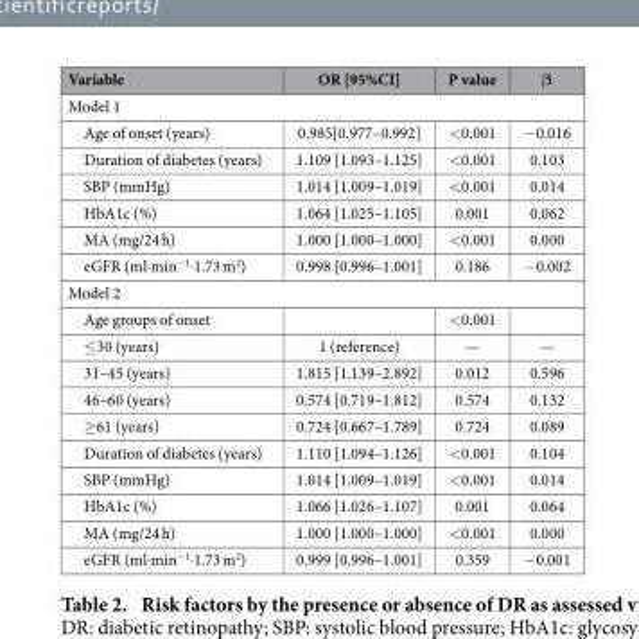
<table><thead><tr><td>Variable</td><td>OR [95%CI]</td><td>P value</td><td>β</td></tr></thead><tbody><tr><td colspan="4">Model 1</td></tr><tr><td>Age of onset (years)</td><td>0.985[0.977–0.992]</td><td>&lt; 0.001</td><td>− 0.016</td></tr><tr><td>Duration of diabetes (years)</td><td>1.109 [1.093–1.125]</td><td>&lt; 0.001</td><td>0.103</td></tr><tr><td>SBP (mmHg)</td><td>1.014 [1.009–1.019]</td><td>&lt; 0.001</td><td>0.014</td></tr><tr><td>HbA1c (%)</td><td>1.064 [1.025–1.105]</td><td>0.001</td><td>0.062</td></tr><tr><td>MA (mg/24 h)</td><td>1.000 [1.000–1.000]</td><td>&lt; 0.001</td><td>0.000</td></tr><tr><td>eGFR (ml·min<sup>−1</sup>·1.73 m<sup>2</sup>)</td><td>0.998 [0.996–1.001]</td><td>0.186</td><td>− 0.002</td></tr><tr><td colspan="4">Model 2</td></tr><tr><td>Age groups of onset</td><td></td><td>&lt; 0.001</td><td></td></tr><tr><td>≤ 30 (years)</td><td>1 (reference)</td><td>—</td><td>—</td></tr><tr><td>31–45 (years)</td><td>1.815 [1.139–2.892]</td><td>0.012</td><td>0.596</td></tr><tr><td>46–60 (years)</td><td>0.574 [0.719–1.812]</td><td>0.574</td><td>0.132</td></tr><tr><td>≥ 61 (years)</td><td>0.724 [0.667–1.789]</td><td>0.724</td><td>0.089</td></tr><tr><td>Duration of diabetes (years)</td><td>1.110 [1.094–1.126]</td><td>&lt; 0.001</td><td>0.104</td></tr><tr><td>SBP (mmHg)</td><td>1.014 [1.009–1.019]</td><td>&lt; 0.001</td><td>0.014</td></tr><tr><td>HbA1c (%)</td><td>1.066 [1.026–1.107]</td><td>0.001</td><td>0.064</td></tr><tr><td>MA (mg/24 h)</td><td>1.000 [1.000–1.000]</td><td>&lt; 0.001</td><td>0.000</td></tr><tr><td>eGFR (ml·min<sup>−1</sup>·1.73 m<sup>2</sup>)</td><td>0.999 [0.996–1.001]</td><td>0.359</td><td>− 0.001</td></tr></tbody></table>